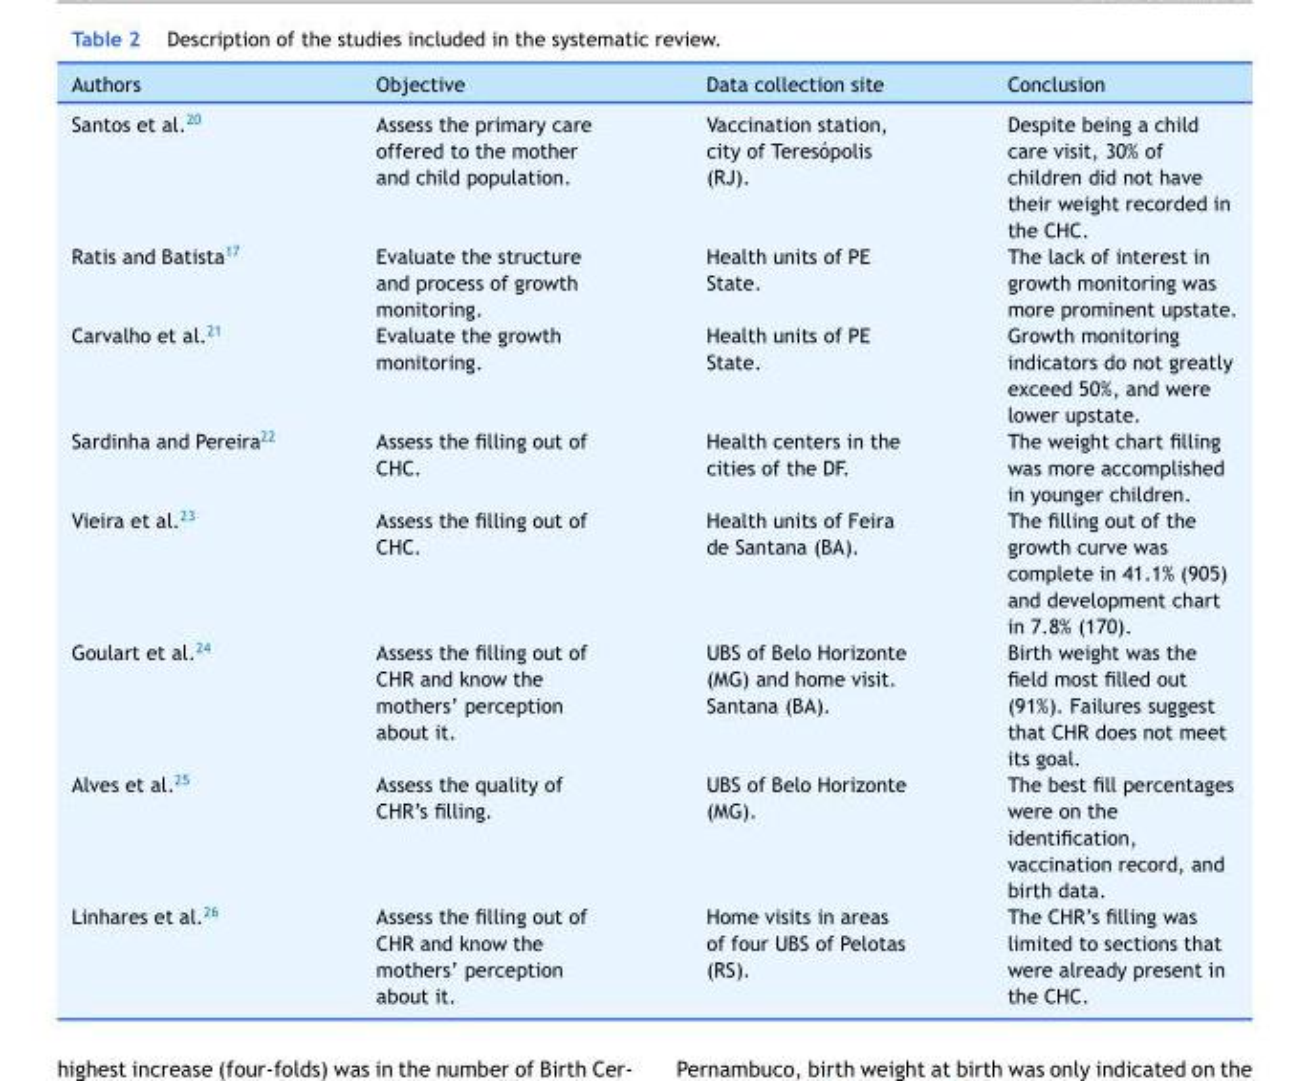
<table><thead><tr><td>Authors</td><td>Objective</td><td>Data collection site</td><td>Conclusion</td></tr></thead><tbody><tr><td>Santos et al.20</td><td>Assess the primary care offered to the mother and child population.</td><td>Vaccination station, city of Teresópolis (RJ).</td><td>Despite being a child care visit, 30% of children did not have their weight recorded in the CHC.</td></tr><tr><td>Ratis and Batista17</td><td>Evaluate the structure and process of growth monitoring.</td><td>Health units of PE State.</td><td>The lack of interest in growth monitoring was more prominent upstate.</td></tr><tr><td>Carvalho et al.21</td><td>Evaluate the growth monitoring.</td><td>Health units of PE State.</td><td>Growth monitoring indicators do not greatly exceed 50%, and were lower upstate.</td></tr><tr><td>Sardinha and Pereira22</td><td>Assess the filling out of CHC.</td><td>Health centers in the cities of the DF.</td><td>The weight chart filling was more accomplished in younger children.</td></tr><tr><td>Vieira et al.23</td><td>Assess the filling out of CHC.</td><td>Health units of Feira de Santana (BA).</td><td>The filling out of the growth curve was complete in 41.1% (905) and development chart in 7.8% (170).</td></tr><tr><td>Goulart et al.24</td><td>Assess the filling out of CHR and know the mothers’ perception about it.</td><td>UBS of Belo Horizonte (MG) and home visit. Santana (BA).</td><td>Birth weight was the field most filled out (91%). Failures suggest that CHR does not meet its goal.</td></tr><tr><td>Alves et al.25</td><td>Assess the quality of CHR’s filling.</td><td>UBS of Belo Horizonte (MG).</td><td>The best fill percentages were on the identification, vaccination record, and birth data.</td></tr><tr><td>Linhares et al.26</td><td>Assess the filling out of CHR and know the mothers’ perception about it.</td><td>Home visits in areas of four UBS of Pelotas (RS).</td><td>The CHR’s filling was limited to sections that were already present in the CHC.</td></tr></tbody></table>